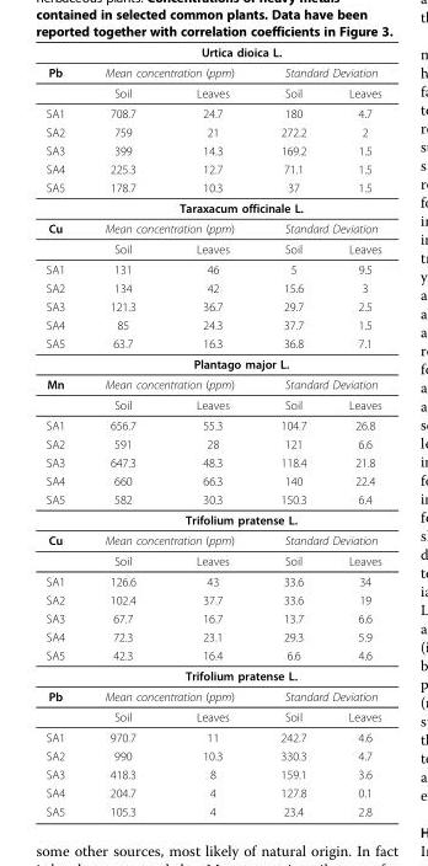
<table><thead><tr><td rowspan="3">Pb</td><td colspan="4">Urtica dioica L.</td></tr><tr><td colspan="2">Mean concentration (ppm)</td><td colspan="2">Standard Deviation</td></tr><tr><td>Soil</td><td>Leaves</td><td>Soil</td><td>Leaves</td></tr></thead><tbody><tr><td>SA1</td><td>708.7</td><td>24.7</td><td>180</td><td>4.7</td></tr><tr><td>SA2</td><td>759</td><td>21</td><td>272.2</td><td>2</td></tr><tr><td>SA3</td><td>399</td><td>14.3</td><td>169.2</td><td>1.5</td></tr><tr><td>SA4</td><td>225.3</td><td>12.7</td><td>71.1</td><td>1.5</td></tr><tr><td rowspan="2">SA5</td><td>178.7</td><td>10.3</td><td>37</td><td>1.5</td></tr><tr><td colspan="4">Taraxacum officinale L.</td></tr><tr><td rowspan="2">Cu</td><td colspan="2">Mean concentration (ppm)</td><td colspan="2">Standard Deviation</td></tr><tr><td>Soil</td><td>Leaves</td><td>Soil</td><td>Leaves</td></tr><tr><td>SA1</td><td>131</td><td>46</td><td>5</td><td>9.5</td></tr><tr><td>SA2</td><td>134</td><td>42</td><td>15.6</td><td>3</td></tr><tr><td>SA3</td><td>121.3</td><td>36.7</td><td>29.7</td><td>2.5</td></tr><tr><td>SA4</td><td>85</td><td>24.3</td><td>37.7</td><td>1.5</td></tr><tr><td rowspan="2">SA5</td><td>63.7</td><td>16.3</td><td>36.8</td><td>7.1</td></tr><tr><td colspan="4">Plantago major L.</td></tr><tr><td rowspan="2">Mn</td><td colspan="2">Mean concentration (ppm)</td><td colspan="2">Standard Deviation</td></tr><tr><td>Soil</td><td>Leaves</td><td>Soil</td><td>Leaves</td></tr><tr><td>SA1</td><td>656.7</td><td>55.3</td><td>104.7</td><td>26.8</td></tr><tr><td>SA2</td><td>591</td><td>28</td><td>121</td><td>6.6</td></tr><tr><td>SA3</td><td>647.3</td><td>48.3</td><td>118.4</td><td>21.8</td></tr><tr><td>SA4</td><td>660</td><td>66.3</td><td>140</td><td>22.4</td></tr><tr><td rowspan="2">SA5</td><td>582</td><td>30.3</td><td>150.3</td><td>6.4</td></tr><tr><td colspan="4">Trifolium pratense L.</td></tr><tr><td rowspan="2">Cu</td><td colspan="2">Mean concentration (ppm)</td><td colspan="2">Standard Deviation</td></tr><tr><td>Soil</td><td>Leaves</td><td>Soil</td><td>Leaves</td></tr><tr><td>SA1</td><td>126.6</td><td>43</td><td>33.6</td><td>34</td></tr><tr><td>SA2</td><td>102.4</td><td>37.7</td><td>33.6</td><td>19</td></tr><tr><td>SA3</td><td>67.7</td><td>16.7</td><td>13.7</td><td>6.6</td></tr><tr><td>SA4</td><td>72.3</td><td>23.1</td><td>29.3</td><td>5.9</td></tr><tr><td rowspan="2">SA5</td><td>42.3</td><td>16.4</td><td>6.6</td><td>4.6</td></tr><tr><td colspan="4">Trifolium pratense L.</td></tr><tr><td rowspan="2">Pb</td><td colspan="2">Mean concentration (ppm)</td><td colspan="2">Standard Deviation</td></tr><tr><td>Soil</td><td>Leaves</td><td>Soil</td><td>Leaves</td></tr><tr><td>SA1</td><td>970.7</td><td>11</td><td>242.7</td><td>4.6</td></tr><tr><td>SA2</td><td>990</td><td>10.3</td><td>330.3</td><td>4.7</td></tr><tr><td>SA3</td><td>418.3</td><td>8</td><td>159.1</td><td>3.6</td></tr><tr><td>SA4</td><td>204.7</td><td>4</td><td>127.8</td><td>0.1</td></tr><tr><td>SA5</td><td>105.3</td><td>4</td><td>23.4</td><td>2.8</td></tr></tbody></table>